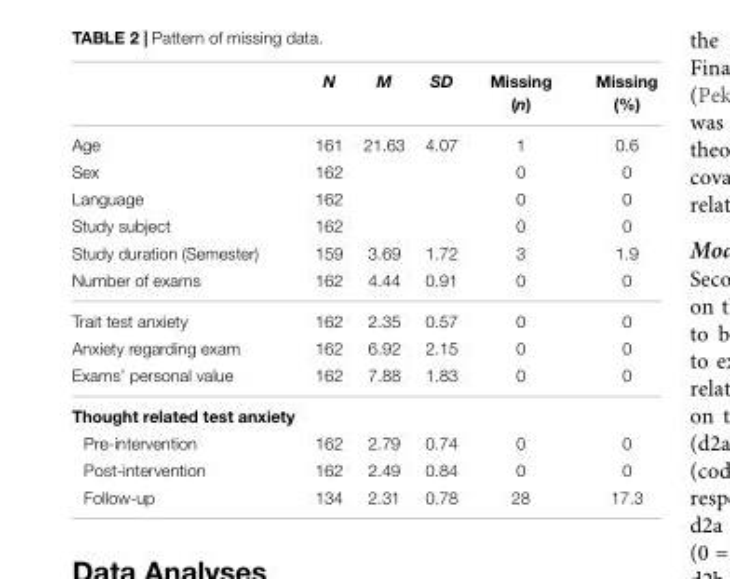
<table><thead><tr><td></td><td>N</td><td>M</td><td>SD</td><td>Missing (n)</td><td>Missing (%)</td></tr></thead><tbody><tr><td>Age</td><td>161</td><td>21.63</td><td>4.07</td><td>1</td><td>0.6</td></tr><tr><td>Sex</td><td>162</td><td></td><td></td><td>0</td><td>0</td></tr><tr><td>Language</td><td>162</td><td></td><td></td><td>0</td><td>0</td></tr><tr><td>Study subject</td><td>162</td><td></td><td></td><td>0</td><td>0</td></tr><tr><td>Study duration (Semester)</td><td>159</td><td>3.69</td><td>1.72</td><td>3</td><td>1.9</td></tr><tr><td>Number of exams</td><td>162</td><td>4.44</td><td>0.91</td><td>0</td><td>0</td></tr><tr><td>Trait test anxiety</td><td>162</td><td>2.35</td><td>0.57</td><td>0</td><td>0</td></tr><tr><td>Anxiety regarding exam</td><td>162</td><td>6.92</td><td>2.15</td><td>0</td><td>0</td></tr><tr><td>Exams’ personal value</td><td>162</td><td>7.88</td><td>1.83</td><td>0</td><td>0</td></tr><tr><td colspan="6">Thought related test anxiety</td></tr><tr><td>Pre-intervention</td><td>162</td><td>2.79</td><td>0.74</td><td>0</td><td>0</td></tr><tr><td>Post-intervention</td><td>162</td><td>2.49</td><td>0.84</td><td>0</td><td>0</td></tr><tr><td>Follow-up</td><td>134</td><td>2.31</td><td>0.78</td><td>28</td><td>17.3</td></tr></tbody></table>